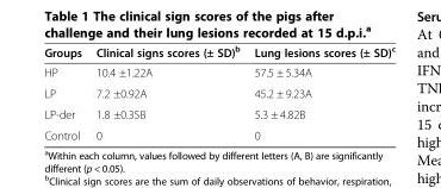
<table><thead><tr><td>Groups</td><td>Clinical signs scores (± SD)<sup>b</sup></td><td>Lung lesions scores (± SD)<sup>c</sup></td></tr></thead><tbody><tr><td>HP</td><td>10.4 ±1.22A</td><td>57.5 ± 5.34A</td></tr><tr><td>LP</td><td>7.2 ±0.92A</td><td>45.2 ± 9.23A</td></tr><tr><td>LP-der</td><td>1.8 ±0.35B</td><td>5.3 ± 4.82B</td></tr><tr><td>Control</td><td>0</td><td>0</td></tr></tbody></table>